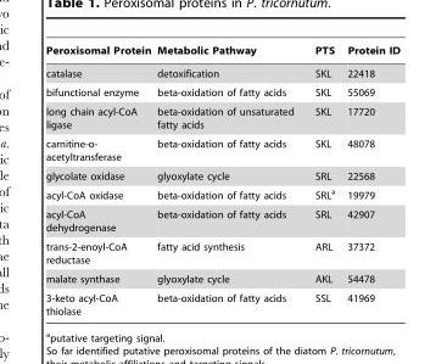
<table><thead><tr><td>Peroxisomal Protein</td><td>Metabolic Pathway</td><td>PTS</td><td>Protein ID</td></tr></thead><tbody><tr><td>catalase</td><td>detoxification</td><td>SKL</td><td>22418</td></tr><tr><td>bifunctional enzyme</td><td>beta-oxidation of fatty acids</td><td>SKL</td><td>55069</td></tr><tr><td>long chain acyl-CoA ligase</td><td>beta-oxidation of unsaturated fatty acids</td><td>SKL</td><td>17720</td></tr><tr><td>carnitine-o- acetyltransferase</td><td>beta-oxidation of fatty acids</td><td>SKL</td><td>48078</td></tr><tr><td>glycolate oxidase</td><td>glyoxylate cycle</td><td>SRL</td><td>22568</td></tr><tr><td>acyl-CoA oxidase</td><td>beta-oxidation of fatty acids</td><td>SRL<sup>a</sup></td><td>19979</td></tr><tr><td>acyl-CoA dehydrogenase</td><td>beta-oxidation of fatty acids</td><td>SRL</td><td>42907</td></tr><tr><td>trans-2-enoyl-CoA reductase</td><td>fatty acid synthesis</td><td>ARL</td><td>37372</td></tr><tr><td>malate synthase</td><td>glyoxylate cycle</td><td>AKL</td><td>54478</td></tr><tr><td>3-keto acyl-CoA thiolase</td><td>beta-oxidation of fatty acids</td><td>SSL</td><td>41969</td></tr></tbody></table>